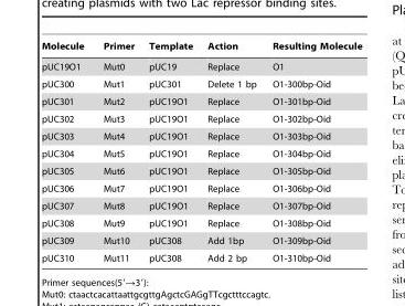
<table><thead><tr><td>Molecule</td><td>Primer</td><td>Template</td><td>Action</td><td>Resulting Molecule</td></tr></thead><tbody><tr><td>pUC19O1</td><td>Mut0</td><td>pUC19</td><td>Replace</td><td>O1</td></tr><tr><td>pUC300</td><td>Mut1</td><td>pUC301</td><td>Delete 1 bp</td><td>O1-300bp-Oid</td></tr><tr><td>pUC301</td><td>Mut2</td><td>pUC19O1</td><td>Replace</td><td>O1-301bp-Oid</td></tr><tr><td>pUC302</td><td>Mut3</td><td>pUC19O1</td><td>Replace</td><td>O1-302bp-Oid</td></tr><tr><td>pUC303</td><td>Mut4</td><td>pUC19O1</td><td>Replace</td><td>O1-303bp-Oid</td></tr><tr><td>pUC304</td><td>Mut5</td><td>pUC19O1</td><td>Replace</td><td>O1-304bp-Oid</td></tr><tr><td>pUC305</td><td>Mut6</td><td>pUC19O1</td><td>Replace</td><td>O1-305bp-Oid</td></tr><tr><td>pUC306</td><td>Mut7</td><td>pUC19O1</td><td>Replace</td><td>O1-306bp-Oid</td></tr><tr><td>pUC307</td><td>Mut8</td><td>pUC19O1</td><td>Replace</td><td>O1-307bp-Oid</td></tr><tr><td>pUC308</td><td>Mut9</td><td>pUC19O1</td><td>Replace</td><td>O1-308bp-Oid</td></tr><tr><td>pUC309</td><td>Mut10</td><td>pUC308</td><td>Add 1bp</td><td>O1-309bp-Oid</td></tr><tr><td>pUC310</td><td>Mut11</td><td>pUC308</td><td>Add 2 bp</td><td>O1-310bp-Oid</td></tr></tbody></table>